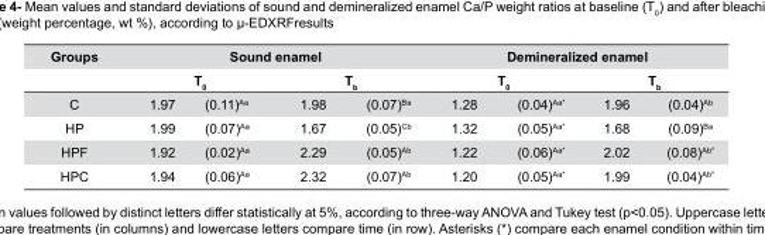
<table><thead><tr><td rowspan="3">Groups C</td><td colspan="4">Sound enamel</td><td colspan="4">Demineralized enamel</td></tr><tr><td colspan="2">T<sub>0</sub></td><td colspan="2">T<sub>b</sub></td><td colspan="2">T<sub>0</sub></td><td colspan="2">T<sub>b</sub></td></tr><tr><td>1.97</td><td>(0.11)<sup>Aa</sup></td><td>1.98</td><td>(0.07)<sup>Ba</sup></td><td>1.28</td><td>(0.04)<sup>Aa</sup>*</td><td>1.96</td><td>(0.04)<sup>Ab</sup></td></tr></thead><tbody><tr><td>HP</td><td>1.99</td><td>(0.07)<sup>Aa</sup></td><td>1.67</td><td>(0.05)<sup>Cb</sup></td><td>1.32</td><td>(0.05)<sup>Aa</sup>*</td><td>1.68</td><td>(0.09)<sup>Ba</sup></td></tr><tr><td>HPF</td><td>1.92</td><td>(0.02)<sup>Aa</sup></td><td>2.29</td><td>(0.05)<sup>Ab</sup></td><td>1.22</td><td>(0.06)<sup>Aa</sup>*</td><td>2.02</td><td>(0.08)<sup>Ab</sup>*</td></tr><tr><td>HPC</td><td>1.94</td><td>(0.06)<sup>Aa</sup></td><td>2.32</td><td>(0.07)<sup>Ab</sup></td><td>1.20</td><td>(0.05)<sup>Aa</sup>*</td><td>1.99</td><td>(0.04)<sup>Ab</sup>*</td></tr></tbody></table>